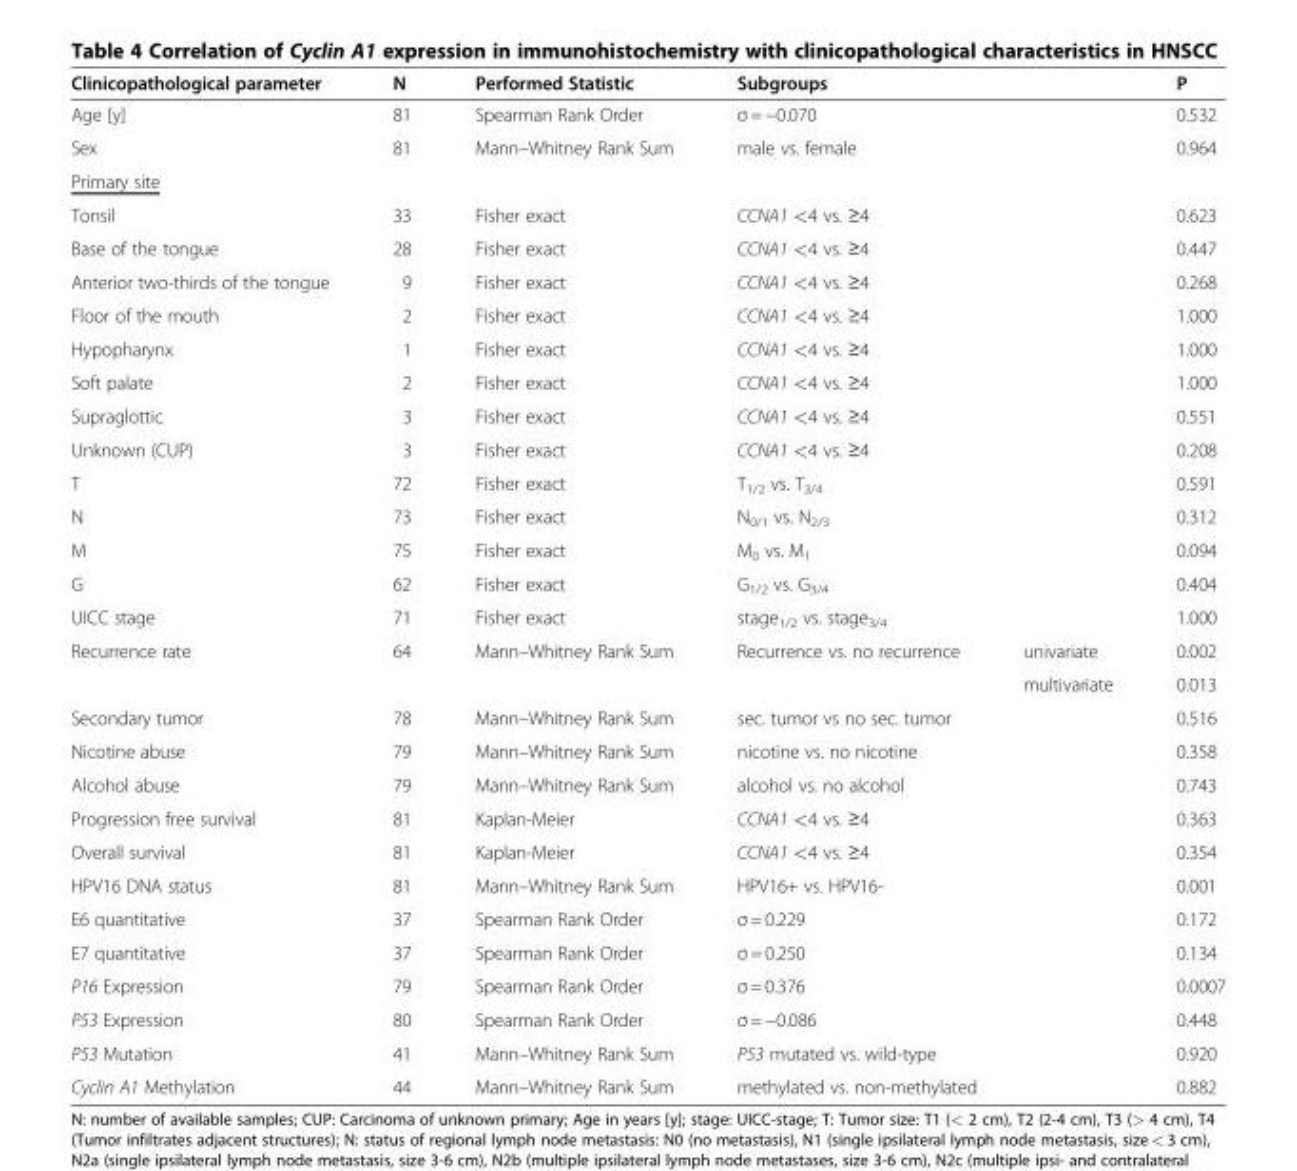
<table><thead><tr><td>Clinicopathological parameter</td><td>N</td><td>Performed Statistic</td><td colspan="2">Subgroups</td><td>P</td></tr></thead><tbody><tr><td>Age [y]</td><td>81</td><td>Spearman Rank Order</td><td colspan="2">σ = −0.070</td><td>0.532</td></tr><tr><td>Sex</td><td>81</td><td>Mann–Whitney Rank Sum</td><td colspan="2">male vs. female</td><td>0.964</td></tr><tr><td colspan="6">Primary site</td></tr><tr><td>Tonsil</td><td>33</td><td>Fisher exact</td><td colspan="2">CCNA1 &lt;4 vs. ≥4</td><td>0.623</td></tr><tr><td>Base of the tongue</td><td>28</td><td>Fisher exact</td><td colspan="2">CCNA1 &lt;4 vs. ≥4</td><td>0.447</td></tr><tr><td>Anterior two-thirds of the tongue</td><td>9</td><td>Fisher exact</td><td colspan="2">CCNA1 &lt;4 vs. ≥4</td><td>0.268</td></tr><tr><td>Floor of the mouth</td><td>2</td><td>Fisher exact</td><td colspan="2">CCNA1 &lt;4 vs. ≥4</td><td>1.000</td></tr><tr><td>Hypopharynx</td><td>1</td><td>Fisher exact</td><td colspan="2">CCNA1 &lt;4 vs. ≥4</td><td>1.000</td></tr><tr><td>Soft palate</td><td>2</td><td>Fisher exact</td><td colspan="2">CCNA1 &lt;4 vs. ≥4</td><td>1.000</td></tr><tr><td>Supraglottic</td><td>3</td><td>Fisher exact</td><td colspan="2">CCNA1 &lt;4 vs. ≥4</td><td>0.551</td></tr><tr><td>Unknown (CUP)</td><td>3</td><td>Fisher exact</td><td colspan="2">CCNA1 &lt;4 vs. ≥4</td><td>0.208</td></tr><tr><td>T</td><td>72</td><td>Fisher exact</td><td colspan="2">T<sub>1/2</sub> vs. T<sub>3/4</sub></td><td>0.591</td></tr><tr><td>N</td><td>73</td><td>Fisher exact</td><td colspan="2">N<sub>0/1</sub> vs. N<sub>2/3</sub></td><td>0.312</td></tr><tr><td>M</td><td>75</td><td>Fisher exact</td><td colspan="2">M<sub>0</sub> vs. M<sub>1</sub></td><td>0.094</td></tr><tr><td>G</td><td>62</td><td>Fisher exact</td><td colspan="2">G<sub>1/2</sub> vs. G<sub>3/4</sub></td><td>0.404</td></tr><tr><td>UICC stage</td><td>71</td><td>Fisher exact</td><td colspan="2">stage<sub>1/2</sub> vs. stage<sub>3/4</sub></td><td>1.000</td></tr><tr><td rowspan="2">Recurrence rate</td><td rowspan="2">64</td><td rowspan="2">Mann–Whitney Rank Sum</td><td rowspan="2">Recurrence vs. no recurrence</td><td>univariate</td><td>0.002</td></tr><tr><td>multivariate</td><td>0.013</td></tr><tr><td>Secondary tumor</td><td>78</td><td>Mann–Whitney Rank Sum</td><td colspan="2">sec. tumor vs no sec. tumor</td><td>0.516</td></tr><tr><td>Nicotine abuse</td><td>79</td><td>Mann–Whitney Rank Sum</td><td colspan="2">nicotine vs. no nicotine</td><td>0.358</td></tr><tr><td>Alcohol abuse</td><td>79</td><td>Mann–Whitney Rank Sum</td><td colspan="2">alcohol vs. no alcohol</td><td>0.743</td></tr><tr><td>Progression free survival</td><td>81</td><td>Kaplan-Meier</td><td colspan="2">CCNA1 &lt;4 vs. ≥4</td><td>0.363</td></tr><tr><td>Overall survival</td><td>81</td><td>Kaplan-Meier</td><td colspan="2">CCNA1 &lt;4 vs. ≥4</td><td>0.354</td></tr><tr><td>HPV16 DNA status</td><td>81</td><td>Mann–Whitney Rank Sum</td><td colspan="2">HPV16+ vs. HPV16-</td><td>0.001</td></tr><tr><td>E6 quantitative</td><td>37</td><td>Spearman Rank Order</td><td colspan="2">σ = 0.229</td><td>0.172</td></tr><tr><td>E7 quantitative</td><td>37</td><td>Spearman Rank Order</td><td colspan="2">σ = 0.250</td><td>0.134</td></tr><tr><td>P16 Expression</td><td>79</td><td>Spearman Rank Order</td><td colspan="2">σ = 0.376</td><td>0.0007</td></tr><tr><td>P53 Expression</td><td>80</td><td>Spearman Rank Order</td><td colspan="2">σ = −0.086</td><td>0.448</td></tr><tr><td>P53 Mutation</td><td>41</td><td>Mann–Whitney Rank Sum</td><td colspan="2">P53 mutated vs. wild-type</td><td>0.920</td></tr><tr><td>Cyclin A1 Methylation</td><td>44</td><td>Mann–Whitney Rank Sum</td><td colspan="2">methylated vs. non-methylated</td><td>0.882</td></tr></tbody></table>